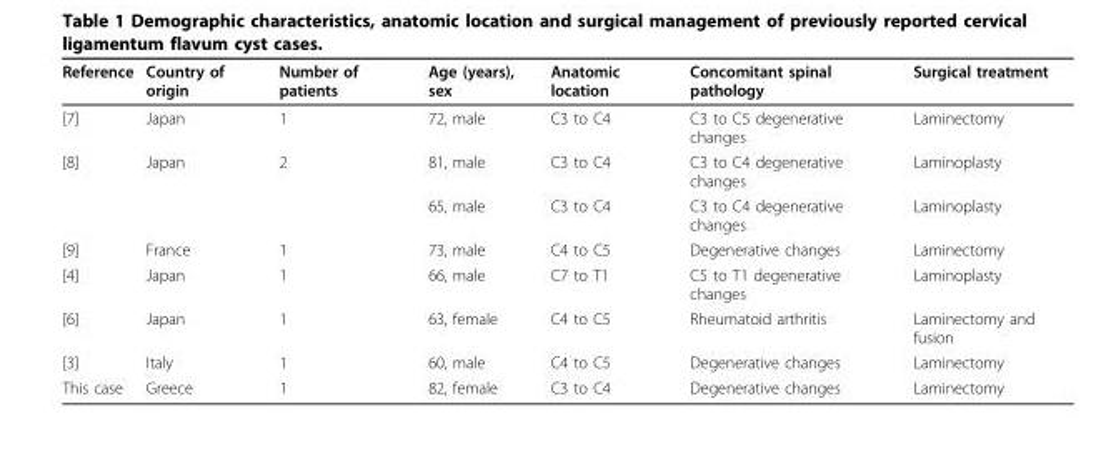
<table><thead><tr><td>Reference</td><td>Country of origin</td><td>Number of patients</td><td>Age (years), sex</td><td>Anatomic location</td><td>Concomitant spinal pathology</td><td>Surgical treatment</td></tr></thead><tbody><tr><td>[7]</td><td>Japan</td><td>1</td><td>72, male</td><td>C3 to C4</td><td>C3 to C5 degenerative changes</td><td>Laminectomy</td></tr><tr><td rowspan="2">[8]</td><td>Japan</td><td>2</td><td>81, male</td><td>C3 to C4</td><td>C3 to C4 degenerative changes</td><td>Laminoplasty</td></tr><tr><td></td><td></td><td>65, male</td><td>C3 to C4</td><td>C3 to C4 degenerative changes</td><td>Laminoplasty</td></tr><tr><td>[9]</td><td>France</td><td>1</td><td>73, male</td><td>C4 to C5</td><td>Degenerative changes</td><td>Laminectomy</td></tr><tr><td>[4]</td><td>Japan</td><td>1</td><td>66, male</td><td>C7 to T1</td><td>C5 to T1 degenerative changes</td><td>Laminoplasty</td></tr><tr><td>[6]</td><td>Japan</td><td>1</td><td>63, female</td><td>C4 to C5</td><td>Rheumatoid arthritis</td><td>Laminectomy and fusion</td></tr><tr><td>[3]</td><td>Italy</td><td>1</td><td>60, male</td><td>C4 to C5</td><td>Degenerative changes</td><td>Laminectomy</td></tr><tr><td>This case</td><td>Greece</td><td>1</td><td>82, female</td><td>C3 to C4</td><td>Degenerative changes</td><td>Laminectomy</td></tr></tbody></table>